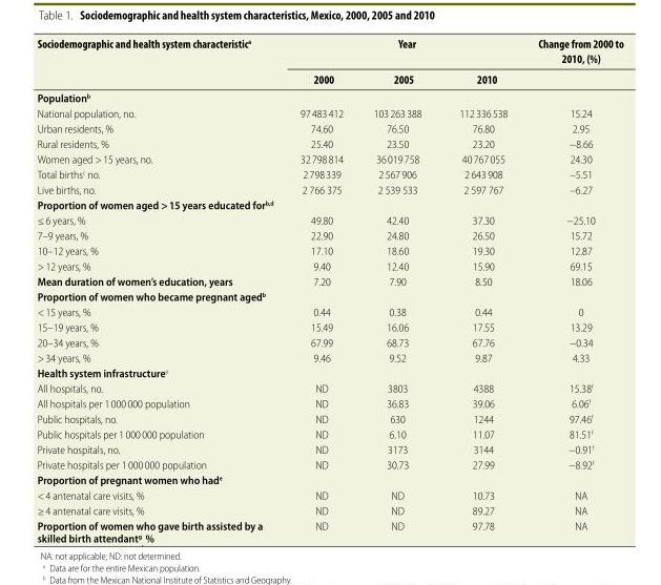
<table><thead><tr><td rowspan="2">Sociodemographic and health system characteristic<sup>a</sup></td><td colspan="3">Year</td><td rowspan="2">Change from 2000 to 2010, (%)</td></tr><tr><td>2000</td><td>2005</td><td>2010</td></tr></thead><tbody><tr><td colspan="5">Population<sup>b</sup></td></tr><tr><td>National population, no.</td><td>97 483 412</td><td>103 263 388</td><td>112 336 538</td><td>15.24</td></tr><tr><td>Urban residents, %</td><td>74.60</td><td>76.50</td><td>76.80</td><td>2.95</td></tr><tr><td>Rural residents, %</td><td>25.40</td><td>23.50</td><td>23.20</td><td>−8.66</td></tr><tr><td>Women aged &gt; 15 years, no.</td><td>32 798 814</td><td>36 019 758</td><td>40 767 055</td><td>24.30</td></tr><tr><td>Total births<sup>c</sup> no.</td><td>2 798 339</td><td>2 567 906</td><td>2 643 908</td><td>–5.51</td></tr><tr><td>Live births, no.</td><td>2 766 375</td><td>2 539 533</td><td>2 597 767</td><td>–6.27</td></tr><tr><td colspan="5">Proportion of women aged &gt; 15 years educated for<sup>b,d</sup></td></tr><tr><td>≤ 6 years, %</td><td>49.80</td><td>42.40</td><td>37.30</td><td>−25.10</td></tr><tr><td>7–9 years, %</td><td>22.90</td><td>24.80</td><td>26.50</td><td>15.72</td></tr><tr><td>10–12 years, %</td><td>17.10</td><td>18.60</td><td>19.30</td><td>12.87</td></tr><tr><td>&gt; 12 years, %</td><td>9.40</td><td>12.40</td><td>15.90</td><td>69.15</td></tr><tr><td>Mean duration of women’s education, years</td><td>7.20</td><td>7.90</td><td>8.50</td><td>18.06</td></tr><tr><td colspan="5">Proportion of women who became pregnant aged<sup>b</sup></td></tr><tr><td>&lt; 15 years, %</td><td>0.44</td><td>0.38</td><td>0.44</td><td>0</td></tr><tr><td>15–19 years, %</td><td>15.49</td><td>16.06</td><td>17.55</td><td>13.29</td></tr><tr><td>20–34 years, %</td><td>67.99</td><td>68.73</td><td>67.76</td><td>−0.34</td></tr><tr><td>&gt; 34 years, %</td><td>9.46</td><td>9.52</td><td>9.87</td><td>4.33</td></tr><tr><td colspan="5">Health system infrastructure<sup>e</sup></td></tr><tr><td>All hospitals, no.</td><td>ND</td><td>3803</td><td>4388</td><td>15.38<sup>f</sup></td></tr><tr><td>All hospitals per 1 000 000 population</td><td>ND</td><td>36.83</td><td>39.06</td><td>6.06<sup>f</sup></td></tr><tr><td>Public hospitals, no.</td><td>ND</td><td>630</td><td>1244</td><td>97.46<sup>f</sup></td></tr><tr><td>Public hospitals per 1 000 000 population</td><td>ND</td><td>6.10</td><td>11.07</td><td>81.51<sup>f</sup></td></tr><tr><td>Private hospitals, no.</td><td>ND</td><td>3173</td><td>3144</td><td>−0.91<sup>f</sup></td></tr><tr><td>Private hospitals per 1 000 000 population</td><td>ND</td><td>30.73</td><td>27.99</td><td>−8.92<sup>f</sup></td></tr><tr><td colspan="5">Proportion of pregnant women who had<sup>e</sup></td></tr><tr><td>&lt; 4 antenatal care visits, %</td><td>ND</td><td>ND</td><td>10.73</td><td>NA</td></tr><tr><td>≥ 4 antenatal care visits, %</td><td>ND</td><td>ND</td><td>89.27</td><td>NA</td></tr><tr><td>Proportion of women who gave birth assisted by a skilled birth attendant<sup>g</sup> <sub>,</sub> %</td><td>ND</td><td>ND</td><td>97.78</td><td>NA</td></tr></tbody></table>